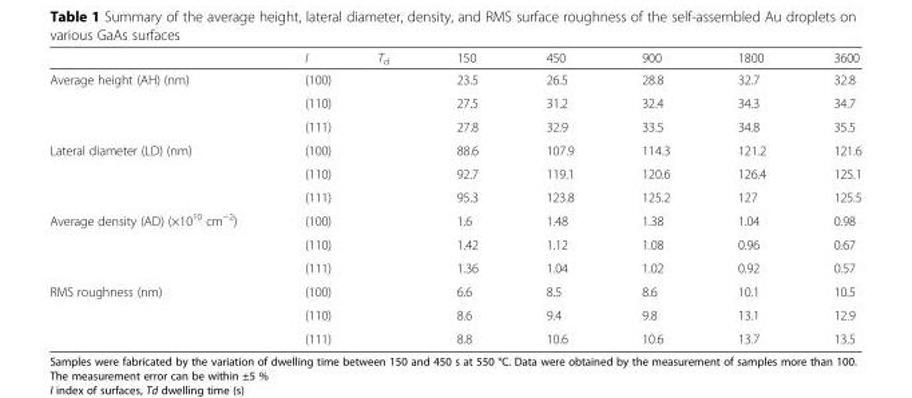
<table><thead><tr><td></td><td>I</td><td>T<sub>d</sub></td><td>150</td><td>450</td><td>900</td><td>1800</td><td>3600</td></tr></thead><tbody><tr><td rowspan="3">Average height (AH) (nm)</td><td colspan="2">(100)</td><td>23.5</td><td>26.5</td><td>28.8</td><td>32.7</td><td>32.8</td></tr><tr><td colspan="2">(110)</td><td>27.5</td><td>31.2</td><td>32.4</td><td>34.3</td><td>34.7</td></tr><tr><td colspan="2">(111)</td><td>27.8</td><td>32.9</td><td>33.5</td><td>34.8</td><td>35.5</td></tr><tr><td rowspan="3">Lateral diameter (LD) (nm)</td><td colspan="2">(100)</td><td>88.6</td><td>107.9</td><td>114.3</td><td>121.2</td><td>121.6</td></tr><tr><td colspan="2">(110)</td><td>92.7</td><td>119.1</td><td>120.6</td><td>126.4</td><td>125.1</td></tr><tr><td colspan="2">(111)</td><td>95.3</td><td>123.8</td><td>125.2</td><td>127</td><td>125.5</td></tr><tr><td rowspan="3">Average density (AD) (×10<sup>10</sup> cm<sup>−2</sup>)</td><td colspan="2">(100)</td><td>1.6</td><td>1.48</td><td>1.38</td><td>1.04</td><td>0.98</td></tr><tr><td colspan="2">(110)</td><td>1.42</td><td>1.12</td><td>1.08</td><td>0.96</td><td>0.67</td></tr><tr><td colspan="2">(111)</td><td>1.36</td><td>1.04</td><td>1.02</td><td>0.92</td><td>0.57</td></tr><tr><td rowspan="3">RMS roughness (nm)</td><td colspan="2">(100)</td><td>6.6</td><td>8.5</td><td>8.6</td><td>10.1</td><td>10.5</td></tr><tr><td colspan="2">(110)</td><td>8.6</td><td>9.4</td><td>9.8</td><td>13.1</td><td>12.9</td></tr><tr><td colspan="2">(111)</td><td>8.8</td><td>10.6</td><td>10.6</td><td>13.7</td><td>13.5</td></tr></tbody></table>